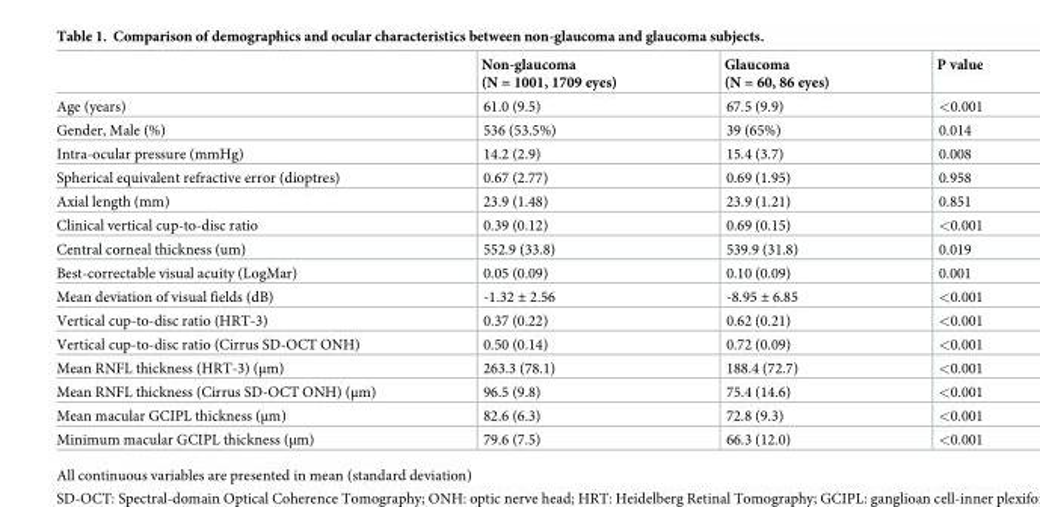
<table><thead><tr><td></td><td>Non-glaucoma (N = 1001, 1709 eyes)</td><td>Glaucoma (N = 60, 86 eyes)</td><td>P value</td></tr></thead><tbody><tr><td>Age (years)</td><td>61.0 (9.5)</td><td>67.5 (9.9)</td><td>&lt;0.001</td></tr><tr><td>Gender, Male (%)</td><td>536 (53.5%)</td><td>39 (65%)</td><td>0.014</td></tr><tr><td>Intra-ocular pressure (mmHg)</td><td>14.2 (2.9)</td><td>15.4 (3.7)</td><td>0.008</td></tr><tr><td>Spherical equivalent refractive error (dioptres)</td><td>0.67 (2.77)</td><td>0.69 (1.95)</td><td>0.958</td></tr><tr><td>Axial length (mm)</td><td>23.9 (1.48)</td><td>23.9 (1.21)</td><td>0.851</td></tr><tr><td>Clinical vertical cup-to-disc ratio</td><td>0.39 (0.12)</td><td>0.69 (0.15)</td><td>&lt;0.001</td></tr><tr><td>Central corneal thickness (um)</td><td>552.9 (33.8)</td><td>539.9 (31.8)</td><td>0.019</td></tr><tr><td>Best-correctable visual acuity (LogMar)</td><td>0.05 (0.09)</td><td>0.10 (0.09)</td><td>0.001</td></tr><tr><td>Mean deviation of visual fields (dB)</td><td>-1.32 ± 2.56</td><td>-8.95 ± 6.85</td><td>&lt;0.001</td></tr><tr><td>Vertical cup-to-disc ratio (HRT-3)</td><td>0.37 (0.22)</td><td>0.62 (0.21)</td><td>&lt;0.001</td></tr><tr><td>Vertical cup-to-disc ratio (Cirrus SD-OCT ONH)</td><td>0.50 (0.14)</td><td>0.72 (0.09)</td><td>&lt;0.001</td></tr><tr><td>Mean RNFL thickness (HRT-3) (µm)</td><td>263.3 (78.1)</td><td>188.4 (72.7)</td><td>&lt;0.001</td></tr><tr><td>Mean RNFL thickness (Cirrus SD-OCT ONH) (µm)</td><td>96.5 (9.8)</td><td>75.4 (14.6)</td><td>&lt;0.001</td></tr><tr><td>Mean macular GCIPL thickness (µm)</td><td>82.6 (6.3)</td><td>72.8 (9.3)</td><td>&lt;0.001</td></tr><tr><td>Minimum macular GCIPL thickness (µm)</td><td>79.6 (7.5)</td><td>66.3 (12.0)</td><td>&lt;0.001</td></tr></tbody></table>